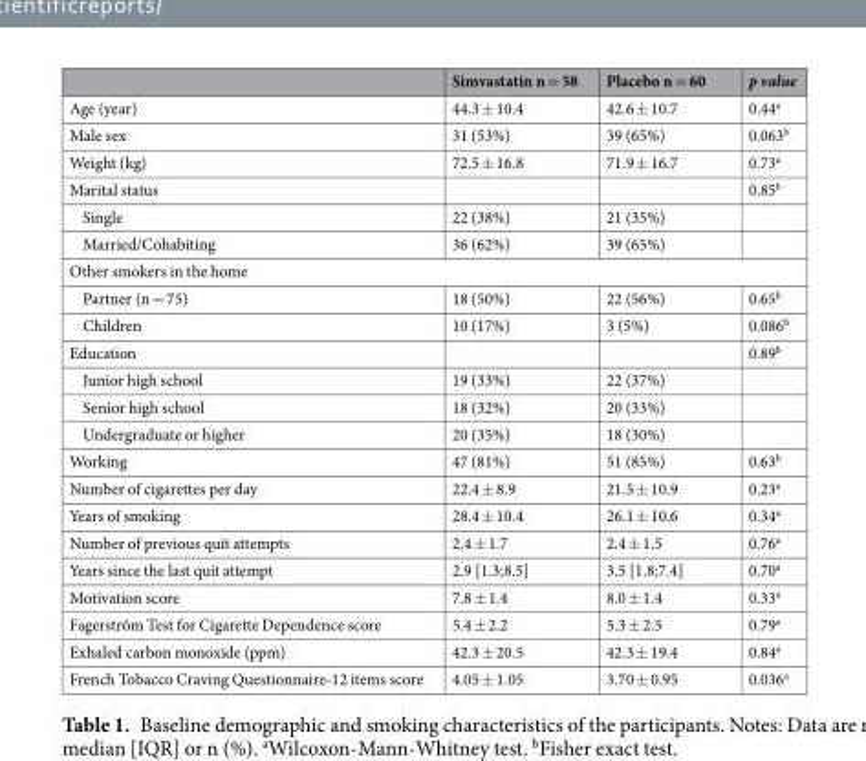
<table><thead><tr><td></td><td>Simvastatin n = 58</td><td>Placebo n = 60</td><td>p value</td></tr></thead><tbody><tr><td>Age (year)</td><td>44.3 ± 10.4</td><td>42.6 ± 10.7</td><td>0.44<sup>a</sup></td></tr><tr><td>Male sex</td><td>31 (53%)</td><td>39 (65%)</td><td>0.063<sup>b</sup></td></tr><tr><td>Weight (kg)</td><td>72.5 ± 16.8</td><td>71.9 ± 16.7</td><td>0.73<sup>a</sup></td></tr><tr><td>Marital status</td><td></td><td></td><td>0.85<sup>b</sup></td></tr><tr><td>Single</td><td>22 (38%)</td><td>21 (35%)</td><td></td></tr><tr><td>Married/Cohabiting</td><td>36 (62%)</td><td>39 (65%)</td><td></td></tr><tr><td colspan="4">Other smokers in the home</td></tr><tr><td>Partner (n = 75)</td><td>18 (50%)</td><td>22 (56%)</td><td>0.65<sup>b</sup></td></tr><tr><td>Children</td><td>10 (17%)</td><td>3 (5%)</td><td>0.086<sup>b</sup></td></tr><tr><td>Education</td><td></td><td></td><td>0.89<sup>b</sup></td></tr><tr><td>Junior high school</td><td>19 (33%)</td><td>22 (37%)</td><td></td></tr><tr><td>Senior high school</td><td>18 (32%)</td><td>20 (33%)</td><td></td></tr><tr><td>Undergraduate or higher</td><td>20 (35%)</td><td>18 (30%)</td><td></td></tr><tr><td>Working</td><td>47 (81%)</td><td>51 (85%)</td><td>0.63<sup>b</sup></td></tr><tr><td>Number of cigarettes per day</td><td>22.4 ± 8.9</td><td>21.5 ± 10.9</td><td>0.23<sup>a</sup></td></tr><tr><td>Years of smoking</td><td>28.4 ± 10.4</td><td>26.1 ± 10.6</td><td>0.34<sup>a</sup></td></tr><tr><td>Number of previous quit attempts</td><td>2.4 ± 1.7</td><td>2.4 ± 1.5</td><td>0.76<sup>a</sup></td></tr><tr><td>Years since the last quit attempt</td><td>2.9 [1.3;8.5]</td><td>3.5 [1.8;7.4]</td><td>0.70<sup>a</sup></td></tr><tr><td>Motivation score</td><td>7.8 ± 1.4</td><td>8.0 ± 1.4</td><td>0.33<sup>a</sup></td></tr><tr><td>Fagerström Test for Cigarette Dependence score</td><td>5.4 ± 2.2</td><td>5.3 ± 2.5</td><td>0.79<sup>a</sup></td></tr><tr><td>Exhaled carbon monoxide (ppm)</td><td>42.3 ± 20.5</td><td>42.3 ± 19.4</td><td>0.84<sup>a</sup></td></tr><tr><td>French Tobacco Craving Questionnaire-12 items score</td><td>4.05 ± 1.05</td><td>3.70 ± 0.95</td><td>0.036<sup>a</sup></td></tr></tbody></table>